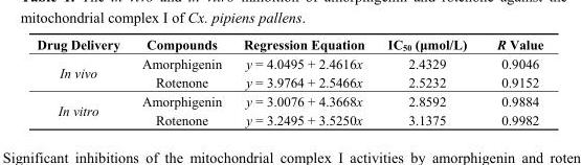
<table><thead><tr><td>Drug Delivery</td><td>Compounds</td><td>Regression Equation</td><td>IC<sub>50</sub> (μmol/L)</td><td>R Value</td></tr></thead><tbody><tr><td rowspan="2">In vivo</td><td>Amorphigenin</td><td>y = 4.0495 + 2.4616x</td><td>2.4329</td><td>0.9046</td></tr><tr><td>Rotenone</td><td>y = 3.9764 + 2.5466x</td><td>2.5232</td><td>0.9152</td></tr><tr><td rowspan="2">In vitro</td><td>Amorphigenin</td><td>y = 3.0076 + 4.3668x</td><td>2.8592</td><td>0.9884</td></tr><tr><td>Rotenone</td><td>y = 3.2495 + 3.5250x</td><td>3.1375</td><td>0.9982</td></tr></tbody></table>